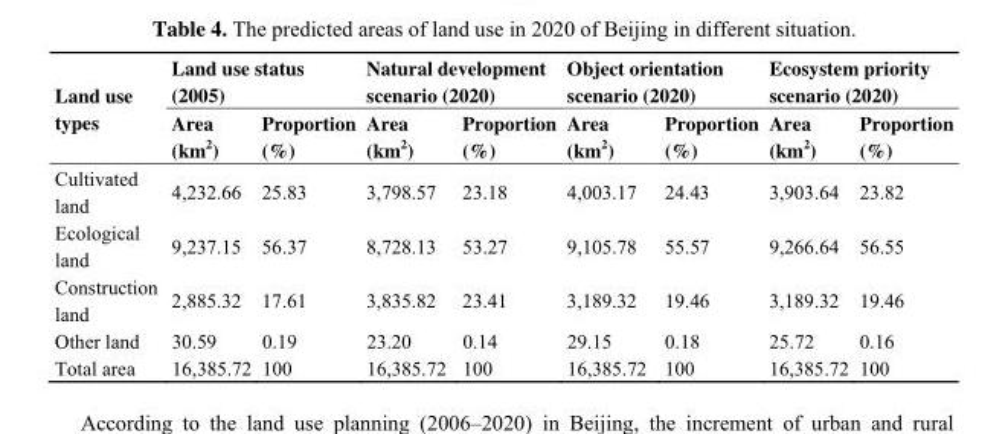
<table><thead><tr><td rowspan="2">Land use types</td><td colspan="2">Land use status (2005)</td><td colspan="2">Natural development scenario (2020)</td><td colspan="2">Object orientation scenario (2020)</td><td colspan="2">Ecosystem priority scenario (2020)</td></tr><tr><td>Area (km<sup>2</sup>)</td><td>Proportion (%)</td><td>Area (km<sup>2</sup>)</td><td>Proportion (%)</td><td>Area (km<sup>2</sup>)</td><td>Proportion (%)</td><td>Area (km<sup>2</sup>)</td><td>Proportion (%)</td></tr></thead><tbody><tr><td>Cultivated land</td><td>4,232.66</td><td>25.83</td><td>3,798.57</td><td>23.18</td><td>4,003.17</td><td>24.43</td><td>3,903.64</td><td>23.82</td></tr><tr><td>Ecological land</td><td>9,237.15</td><td>56.37</td><td>8,728.13</td><td>53.27</td><td>9,105.78</td><td>55.57</td><td>9,266.64</td><td>56.55</td></tr><tr><td>Construction land</td><td>2,885.32</td><td>17.61</td><td>3,835.82</td><td>23.41</td><td>3,189.32</td><td>19.46</td><td>3,189.32</td><td>19.46</td></tr><tr><td>Other land</td><td>30.59</td><td>0.19</td><td>23.20</td><td>0.14</td><td>29.15</td><td>0.18</td><td>25.72</td><td>0.16</td></tr><tr><td>Total area</td><td>16,385.72</td><td>100</td><td>16,385.72</td><td>100</td><td>16,385.72</td><td>100</td><td>16,385.72</td><td>100</td></tr></tbody></table>